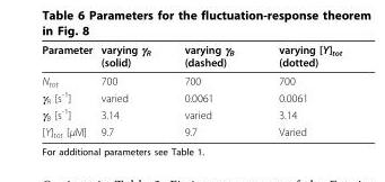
<table><thead><tr><td>Parameter</td><td>varying γ<sub>R</sub> (solid)</td><td>varying γ<sub>B</sub> (dashed)</td><td>varying [Y]<sub>tot</sub> (dotted)</td></tr></thead><tbody><tr><td>N<sub>tot</sub></td><td>700</td><td>700</td><td>700</td></tr><tr><td>γ<sub>R</sub> [s<sup>-1</sup>]</td><td>varied</td><td>0.0061</td><td>0.0061</td></tr><tr><td>γ<sub>B</sub> [s<sup>-1</sup>]</td><td>3.14</td><td>varied</td><td>3.14</td></tr><tr><td>[Y]<sub>tot</sub> [μM]</td><td>9.7</td><td>9.7</td><td>Varied</td></tr></tbody></table>